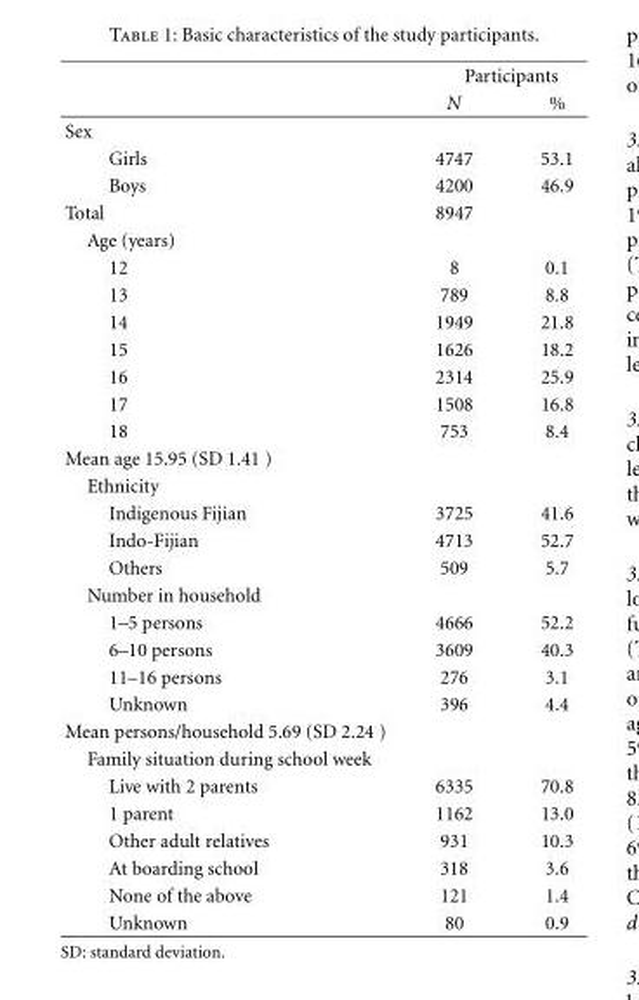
<table><thead><tr><td rowspan="2"></td><td colspan="2">Participants</td></tr><tr><td>N</td><td>%</td></tr></thead><tbody><tr><td colspan="3">Sex</td></tr><tr><td>Girls</td><td>4747</td><td>53.1</td></tr><tr><td>Boys</td><td>4200</td><td>46.9</td></tr><tr><td>Total</td><td>8947</td><td></td></tr><tr><td colspan="3">Age (years)</td></tr><tr><td>12</td><td>8</td><td>0.1</td></tr><tr><td>13</td><td>789</td><td>8.8</td></tr><tr><td>14</td><td>1949</td><td>21.8</td></tr><tr><td>15</td><td>1626</td><td>18.2</td></tr><tr><td>16</td><td>2314</td><td>25.9</td></tr><tr><td>17</td><td>1508</td><td>16.8</td></tr><tr><td>18</td><td>753</td><td>8.4</td></tr><tr><td colspan="3">Mean age 15.95 (SD 1.41 )</td></tr><tr><td colspan="3">Ethnicity</td></tr><tr><td>Indigenous Fijian</td><td>3725</td><td>41.6</td></tr><tr><td>Indo-Fijian</td><td>4713</td><td>52.7</td></tr><tr><td>Others</td><td>509</td><td>5.7</td></tr><tr><td colspan="3">Number in household</td></tr><tr><td>1–5 persons</td><td>4666</td><td>52.2</td></tr><tr><td>6–10 persons</td><td>3609</td><td>40.3</td></tr><tr><td>11–16 persons</td><td>276</td><td>3.1</td></tr><tr><td>Unknown</td><td>396</td><td>4.4</td></tr><tr><td colspan="3">Mean persons/household 5.69 (SD 2.24 )</td></tr><tr><td colspan="3">Family situation during school week</td></tr><tr><td>Live with 2 parents</td><td>6335</td><td>70.8</td></tr><tr><td>1 parent</td><td>1162</td><td>13.0</td></tr><tr><td>Other adult relatives</td><td>931</td><td>10.3</td></tr><tr><td>At boarding school</td><td>318</td><td>3.6</td></tr><tr><td>None of the above</td><td>121</td><td>1.4</td></tr><tr><td>Unknown</td><td>80</td><td>0.9</td></tr></tbody></table>